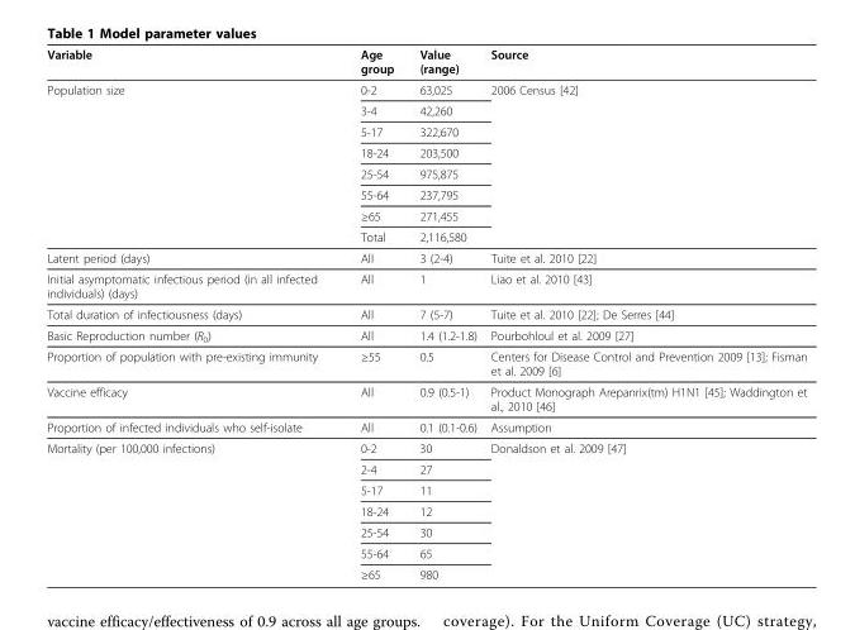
<table><thead><tr><td>Variable</td><td>Age group</td><td>Value (range)</td><td>Source</td></tr></thead><tbody><tr><td rowspan="8">Population size</td><td>0-2</td><td>63,025</td><td>2006 Census [42]</td></tr><tr><td>3-4</td><td>42,260</td><td></td></tr><tr><td>5-17</td><td>322,670</td><td></td></tr><tr><td>18-24</td><td>203,500</td><td></td></tr><tr><td>25-54</td><td>975,875</td><td></td></tr><tr><td>55-64</td><td>237,795</td><td></td></tr><tr><td>≥65</td><td>271,455</td><td></td></tr><tr><td>Total</td><td>2,116,580</td><td></td></tr><tr><td>Latent period (days)</td><td>All</td><td>3 (2-4)</td><td>Tuite et al. 2010 [22]</td></tr><tr><td>Initial asymptomatic infectious period (in all infected individuals) (days)</td><td>All</td><td>1</td><td>Liao et al. 2010 [43]</td></tr><tr><td>Total duration of infectiousness (days)</td><td>All</td><td>7 (5-7)</td><td>Tuite et al. 2010 [22]; De Serres [44]</td></tr><tr><td>Basic Reproduction number (R<sub>0</sub>)</td><td>All</td><td>1.4 (1.2-1.8)</td><td>Pourbohloul et al. 2009 [27]</td></tr><tr><td>Proportion of population with pre-existing immunity</td><td>≥55</td><td>0.5</td><td>Centers for Disease Control and Prevention 2009 [13]; Fisman et al. 2009 [6]</td></tr><tr><td>Vaccine efficacy</td><td>All</td><td>0.9 (0.5-1)</td><td>Product Monograph Arepanrix(tm) H1N1 [45]; Waddington et al., 2010 [46]</td></tr><tr><td>Proportion of infected individuals who self-isolate</td><td>All</td><td>0.1 (0.1-0.6)</td><td>Assumption</td></tr><tr><td rowspan="7">Mortality (per 100,000 infections)</td><td>0-2</td><td>30</td><td>Donaldson et al. 2009 [47]</td></tr><tr><td>2-4</td><td>27</td><td></td></tr><tr><td>5-17</td><td>11</td><td></td></tr><tr><td>18-24</td><td>12</td><td></td></tr><tr><td>25-54</td><td>30</td><td></td></tr><tr><td>55-64</td><td>65</td><td></td></tr><tr><td>≥65</td><td>980</td><td></td></tr></tbody></table>